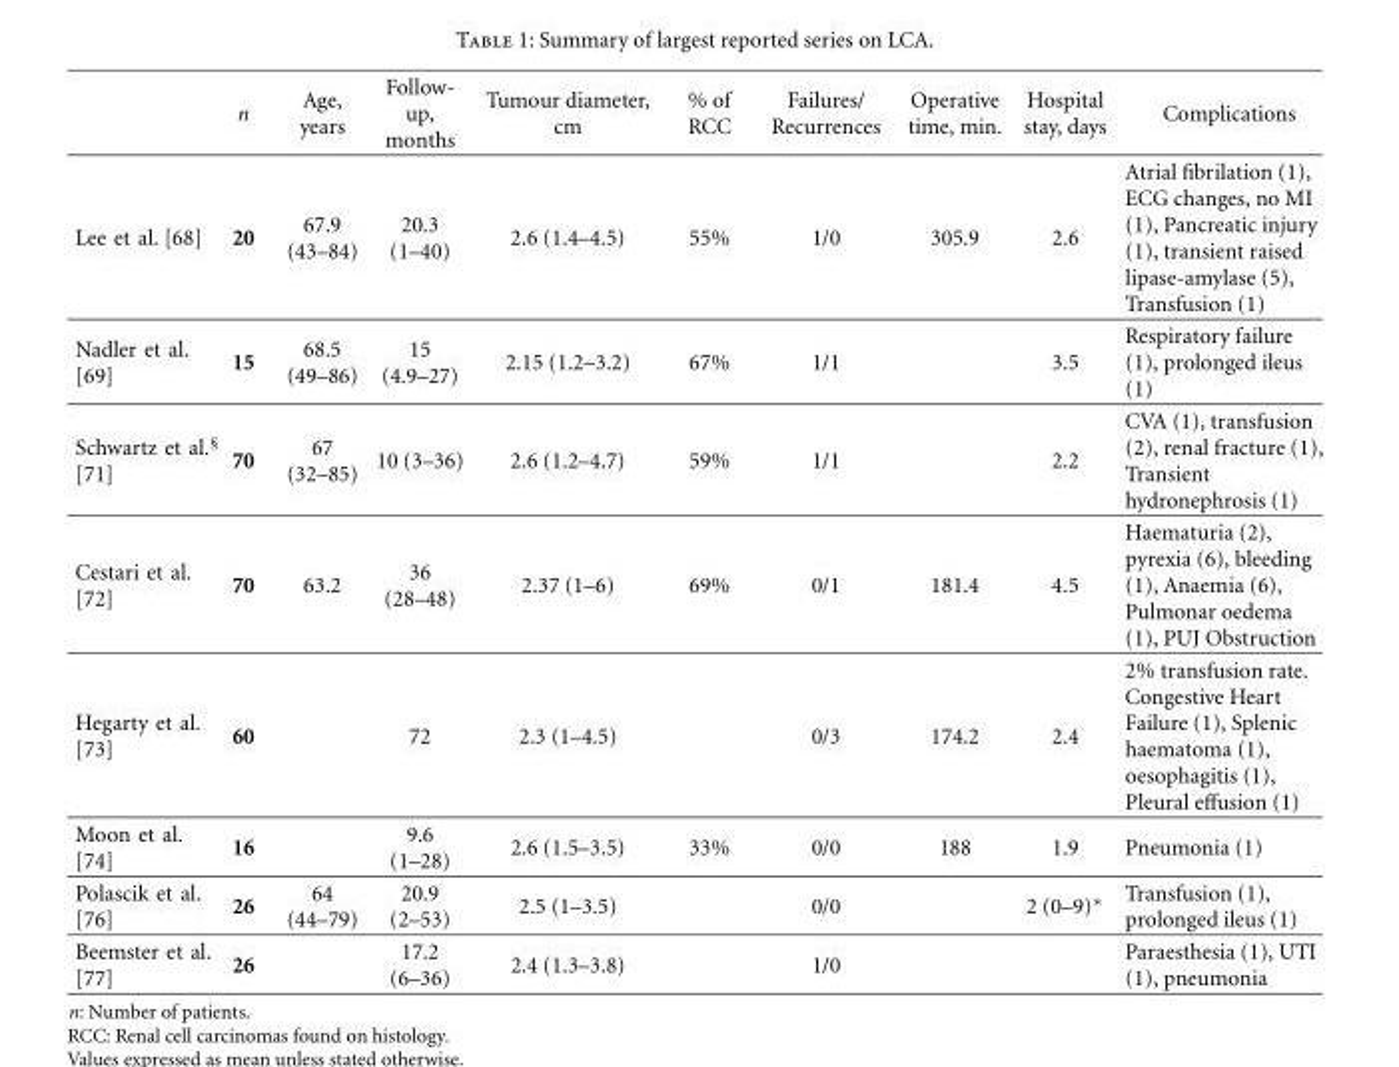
<table><thead><tr><td></td><td>n</td><td>Age, years</td><td>Follow- up, months</td><td>Tumour diameter, cm</td><td>% of RCC</td><td>Failures/ Recurrences</td><td>Operative time, min.</td><td>Hospital stay, days</td><td>Complications</td></tr></thead><tbody><tr><td>Lee et al. [68]</td><td>20</td><td>67.9 (43–84)</td><td>20.3 (1–40)</td><td>2.6 (1.4–4.5)</td><td>55%</td><td>1/0</td><td>305.9</td><td>2.6</td><td>Atrial fibrilation (1), ECG changes, no MI (1), Pancreatic injury (1), transient raised lipase-amylase (5), Transfusion (1)</td></tr><tr><td>Nadler et al. [69]</td><td>15</td><td>68.5 (49–86)</td><td>15 (4.9–27)</td><td>2.15 (1.2–3.2)</td><td>67%</td><td>1/1</td><td></td><td>3.5</td><td>Respiratory failure (1), prolonged ileus (1)</td></tr><tr><td>Schwartz et al.§ [71]</td><td>70</td><td>67 (32–85)</td><td>10 (3–36)</td><td>2.6 (1.2–4.7)</td><td>59%</td><td>1/1</td><td></td><td>2.2</td><td>CVA (1), transfusion (2), renal fracture (1), Transient hydronephrosis (1)</td></tr><tr><td>Cestari et al. [72]</td><td>70</td><td>63.2</td><td>36 (28–48)</td><td>2.37 (1–6)</td><td>69%</td><td>0/1</td><td>181.4</td><td>4.5</td><td>Haematuria (2), pyrexia (6), bleeding (1), Anaemia (6), Pulmonar oedema (1), PUJ Obstruction</td></tr><tr><td>Hegarty et al. [73]</td><td>60</td><td></td><td>72</td><td>2.3 (1–4.5)</td><td></td><td>0/3</td><td>174.2</td><td>2.4</td><td>2% transfusion rate. Congestive Heart Failure (1), Splenic haematoma (1), oesophagitis (1), Pleural effusion (1)</td></tr><tr><td>Moon et al. [74]</td><td>16</td><td></td><td>9.6 (1–28)</td><td>2.6 (1.5–3.5)</td><td>33%</td><td>0/0</td><td>188</td><td>1.9</td><td>Pneumonia (1)</td></tr><tr><td>Polascik et al. [76]</td><td>26</td><td>64 (44–79)</td><td>20.9 (2–53)</td><td>2.5 (1–3.5)</td><td></td><td>0/0</td><td></td><td>2 (0–9)∗</td><td>Transfusion (1), prolonged ileus (1)</td></tr><tr><td>Beemster et al. [77]</td><td>26</td><td></td><td>17.2 (6–36)</td><td>2.4 (1.3–3.8)</td><td></td><td>1/0</td><td></td><td></td><td>Paraesthesia (1), UTI (1), pneumonia</td></tr></tbody></table>